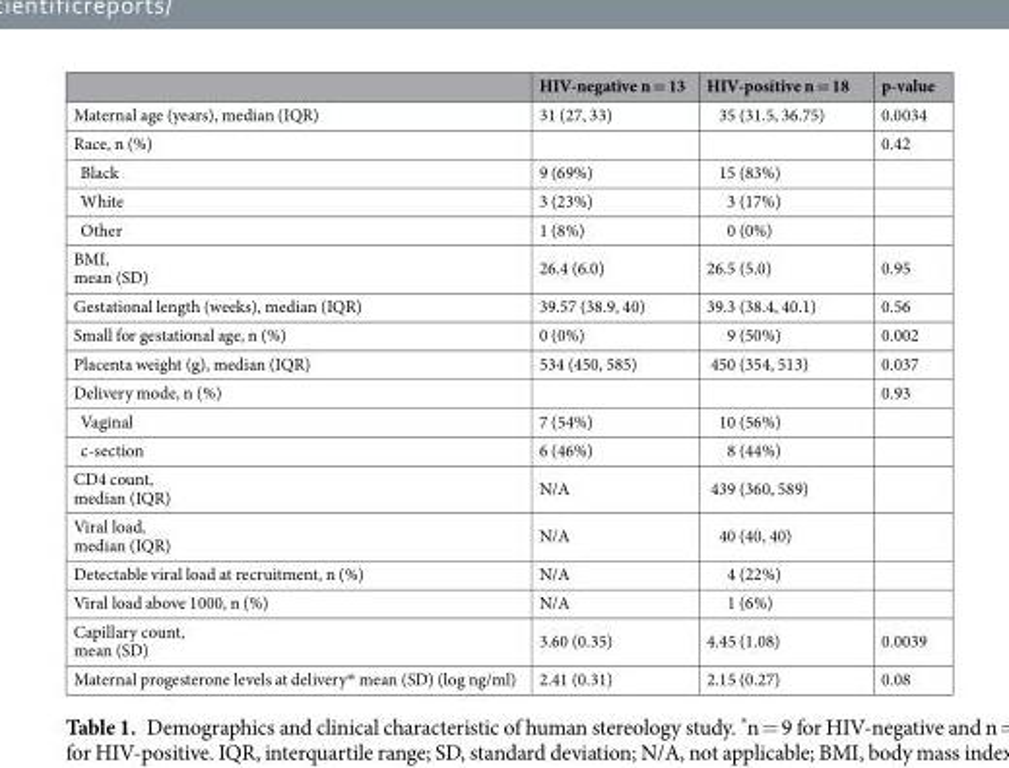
<table><thead><tr><td></td><td>HIV-negative n = 13</td><td>HIV-positive n = 18</td><td>p-value</td></tr></thead><tbody><tr><td>Maternal age (years), median (IQR)</td><td>31 (27, 33)</td><td>35 (31.5, 36.75)</td><td>0.0034</td></tr><tr><td>Race, n (%)</td><td></td><td></td><td>0.42</td></tr><tr><td>Black</td><td>9 (69%)</td><td>15 (83%)</td><td></td></tr><tr><td>White</td><td>3 (23%)</td><td>3 (17%)</td><td></td></tr><tr><td>Other</td><td>1 (8%)</td><td>0 (0%)</td><td></td></tr><tr><td>BMI, mean (SD)</td><td>26.4 (6.0)</td><td>26.5 (5.0)</td><td>0.95</td></tr><tr><td>Gestational length (weeks), median (IQR)</td><td>39.57 (38.9, 40)</td><td>39.3 (38.4, 40.1)</td><td>0.56</td></tr><tr><td>Small for gestational age, n (%)</td><td>0 (0%)</td><td>9 (50%)</td><td>0.002</td></tr><tr><td>Placenta weight (g), median (IQR)</td><td>534 (450, 585)</td><td>450 (354, 513)</td><td>0.037</td></tr><tr><td>Delivery mode, n (%)</td><td></td><td></td><td>0.93</td></tr><tr><td>Vaginal</td><td>7 (54%)</td><td>10 (56%)</td><td></td></tr><tr><td>c-section</td><td>6 (46%)</td><td>8 (44%)</td><td></td></tr><tr><td>CD4 count, median (IQR)</td><td>N/A</td><td>439 (360, 589)</td><td></td></tr><tr><td>Viral load, median (IQR)</td><td>N/A</td><td>40 (40, 40)</td><td></td></tr><tr><td>Detectable viral load at recruitment, n (%)</td><td>N/A</td><td>4 (22%)</td><td></td></tr><tr><td>Viral load above 1000, n (%)</td><td>N/A</td><td>1 (6%)</td><td></td></tr><tr><td>Capillary count, mean (SD)</td><td>3.60 (0.35)</td><td>4.45 (1.08)</td><td>0.0039</td></tr><tr><td>Maternal progesterone levels at delivery* mean (SD) (log ng/ml)</td><td>2.41 (0.31)</td><td>2.15 (0.27)</td><td>0.08</td></tr></tbody></table>